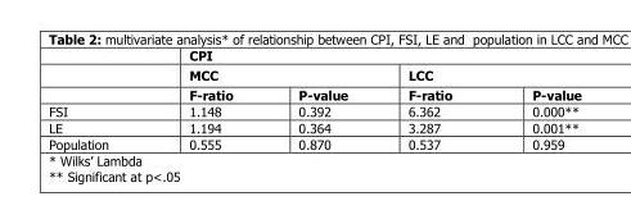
<table><thead><tr><td rowspan="3"></td><td colspan="4">CPI</td></tr><tr><td colspan="2">MCC</td><td colspan="2">LCC</td></tr><tr><td>F-ratio</td><td>P-value</td><td>F-ratio</td><td>P-value</td></tr></thead><tbody><tr><td>FSI</td><td>1.148</td><td>0.392</td><td>6.362</td><td>0.000**</td></tr><tr><td>LE</td><td>1.194</td><td>0.364</td><td>3.287</td><td>0.001**</td></tr><tr><td>Population</td><td>0.555</td><td>0.870</td><td>0.537</td><td>0.959</td></tr></tbody></table>